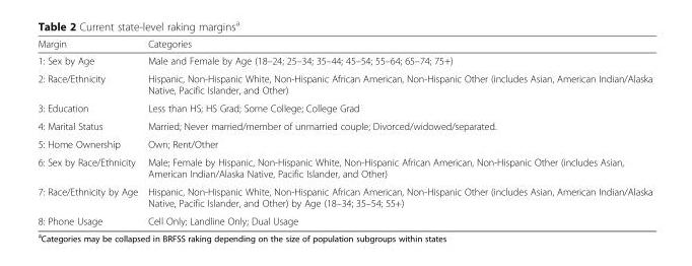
<table><thead><tr><td>Margin</td><td>Categories</td></tr></thead><tbody><tr><td>1: Sex by Age</td><td>Male and Female by Age (18–24; 25–34; 35–44; 45–54; 55–64; 65–74; 75+)</td></tr><tr><td>2: Race/Ethnicity</td><td>Hispanic, Non-Hispanic White, Non-Hispanic African American, Non-Hispanic Other (includes Asian, American Indian/Alaska Native, Pacific Islander, and Other)</td></tr><tr><td>3: Education</td><td>Less than HS; HS Grad; Some College; College Grad</td></tr><tr><td>4: Marital Status</td><td>Married; Never married/member of unmarried couple; Divorced/widowed/separated.</td></tr><tr><td>5: Home Ownership</td><td>Own; Rent/Other</td></tr><tr><td>6: Sex by Race/Ethnicity</td><td>Male; Female by Hispanic, Non-Hispanic White, Non-Hispanic African American, Non-Hispanic Other (includes Asian, American Indian/Alaska Native, Pacific Islander, and Other)</td></tr><tr><td>7: Race/Ethnicity by Age</td><td>Hispanic, Non-Hispanic White, Non-Hispanic African American, Non-Hispanic Other (includes Asian, American Indian/Alaska Native, Pacific Islander, and Other) by Age (18–34; 35–54; 55+)</td></tr><tr><td>8: Phone Usage</td><td>Cell Only; Landline Only; Dual Usage</td></tr></tbody></table>